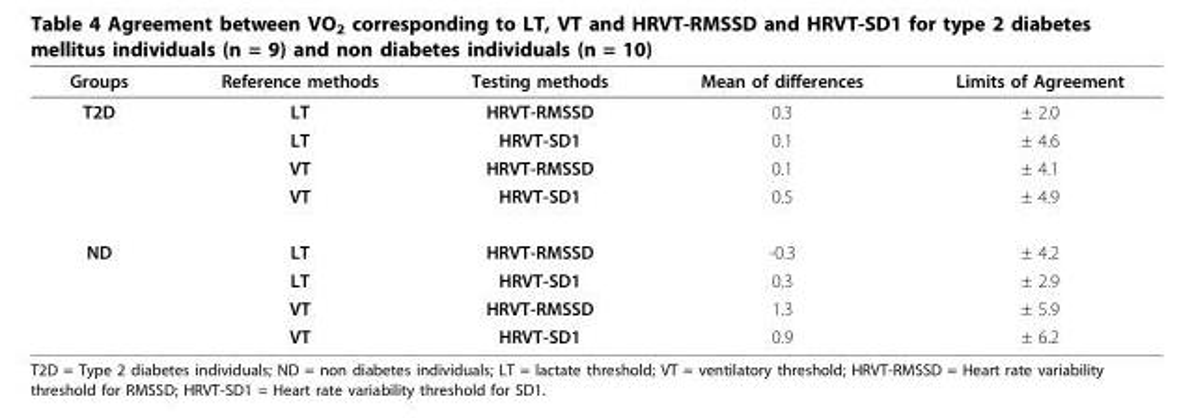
<table><thead><tr><td>Groups</td><td>Reference methods</td><td>Testing methods</td><td>Mean of differences</td><td>Limits of Agreement</td></tr></thead><tbody><tr><td rowspan="4">T2D</td><td>LT</td><td>HRVT-RMSSD</td><td>0.3</td><td>± 2.0</td></tr><tr><td>LT</td><td>HRVT-SD1</td><td>0.1</td><td>± 4.6</td></tr><tr><td>VT</td><td>HRVT-RMSSD</td><td>0.1</td><td>± 4.1</td></tr><tr><td>VT</td><td>HRVT-SD1</td><td>0.5</td><td>± 4.9</td></tr><tr><td rowspan="4">ND</td><td>LT</td><td>HRVT-RMSSD</td><td>-0.3</td><td>± 4.2</td></tr><tr><td>LT</td><td>HRVT-SD1</td><td>0.3</td><td>± 2.9</td></tr><tr><td>VT</td><td>HRVT-RMSSD</td><td>1.3</td><td>± 5.9</td></tr><tr><td>VT</td><td>HRVT-SD1</td><td>0.9</td><td>± 6.2</td></tr></tbody></table>